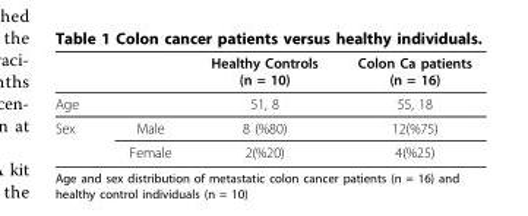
<table><thead><tr><td></td><td></td><td>Healthy Controls (n = 10)</td><td>Colon Ca patients (n = 16)</td></tr></thead><tbody><tr><td colspan="2">Age</td><td>51, 8</td><td>55, 18</td></tr><tr><td rowspan="2">Sex</td><td>Male</td><td>8 (%80)</td><td>12(%75)</td></tr><tr><td>Female</td><td>2(%20)</td><td>4(%25)</td></tr></tbody></table>